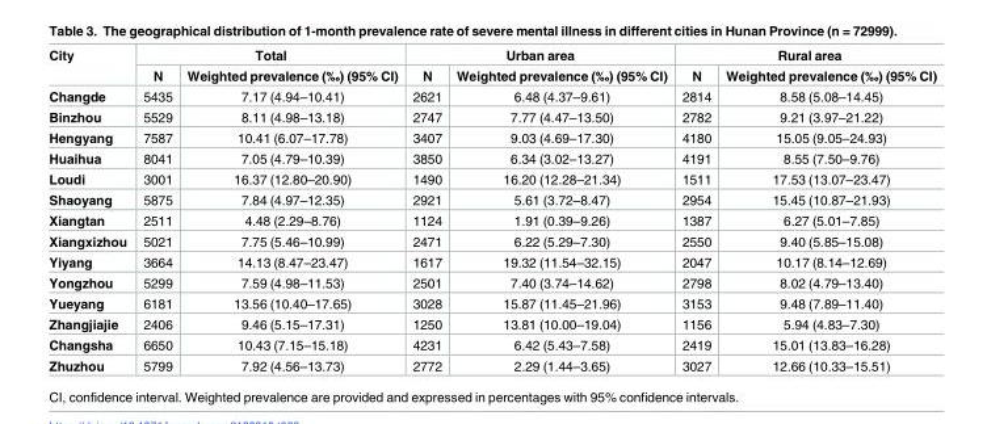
<table><thead><tr><td rowspan="2">City</td><td colspan="2">Total</td><td colspan="2">Urban area</td><td colspan="2">Rural area</td></tr><tr><td>N</td><td>Weighted prevalence (‰) (95% CI)</td><td>N</td><td>Weighted prevalence (‰) (95% CI)</td><td>N</td><td>Weighted prevalence (‰) (95% CI)</td></tr></thead><tbody><tr><td>Changde</td><td>5435</td><td>7.17 (4.94–10.41)</td><td>2621</td><td>6.48 (4.37–9.61)</td><td>2814</td><td>8.58 (5.08–14.45)</td></tr><tr><td>Binzhou</td><td>5529</td><td>8.11 (4.98–13.18)</td><td>2747</td><td>7.77 (4.47–13.50)</td><td>2782</td><td>9.21 (3.97–21.22)</td></tr><tr><td>Hengyang</td><td>7587</td><td>10.41 (6.07–17.78)</td><td>3407</td><td>9.03 (4.69–17.30)</td><td>4180</td><td>15.05 (9.05–24.93)</td></tr><tr><td>Huaihua</td><td>8041</td><td>7.05 (4.79–10.39)</td><td>3850</td><td>6.34 (3.02–13.27)</td><td>4191</td><td>8.55 (7.50–9.76)</td></tr><tr><td>Loudi</td><td>3001</td><td>16.37 (12.80–20.90)</td><td>1490</td><td>16.20 (12.28–21.34)</td><td>1511</td><td>17.53 (13.07–23.47)</td></tr><tr><td>Shaoyang</td><td>5875</td><td>7.84 (4.97–12.35)</td><td>2921</td><td>5.61 (3.72–8.47)</td><td>2954</td><td>15.45 (10.87–21.93)</td></tr><tr><td>Xiangtan</td><td>2511</td><td>4.48 (2.29–8.76)</td><td>1124</td><td>1.91 (0.39–9.26)</td><td>1387</td><td>6.27 (5.01–7.85)</td></tr><tr><td>Xiangxizhou</td><td>5021</td><td>7.75 (5.46–10.99)</td><td>2471</td><td>6.22 (5.29–7.30)</td><td>2550</td><td>9.40 (5.85–15.08)</td></tr><tr><td>Yiyang</td><td>3664</td><td>14.13 (8.47–23.47)</td><td>1617</td><td>19.32 (11.54–32.15)</td><td>2047</td><td>10.17 (8.14–12.69)</td></tr><tr><td>Yongzhou</td><td>5299</td><td>7.59 (4.98–11.53)</td><td>2501</td><td>7.40 (3.74–14.62)</td><td>2798</td><td>8.02 (4.79–13.40)</td></tr><tr><td>Yueyang</td><td>6181</td><td>13.56 (10.40–17.65)</td><td>3028</td><td>15.87 (11.45–21.96)</td><td>3153</td><td>9.48 (7.89–11.40)</td></tr><tr><td>Zhangjiajie</td><td>2406</td><td>9.46 (5.15–17.31)</td><td>1250</td><td>13.81 (10.00–19.04)</td><td>1156</td><td>5.94 (4.83–7.30)</td></tr><tr><td>Changsha</td><td>6650</td><td>10.43 (7.15–15.18)</td><td>4231</td><td>6.42 (5.43–7.58)</td><td>2419</td><td>15.01 (13.83–16.28)</td></tr><tr><td>Zhuzhou</td><td>5799</td><td>7.92 (4.56–13.73)</td><td>2772</td><td>2.29 (1.44–3.65)</td><td>3027</td><td>12.66 (10.33–15.51)</td></tr></tbody></table>